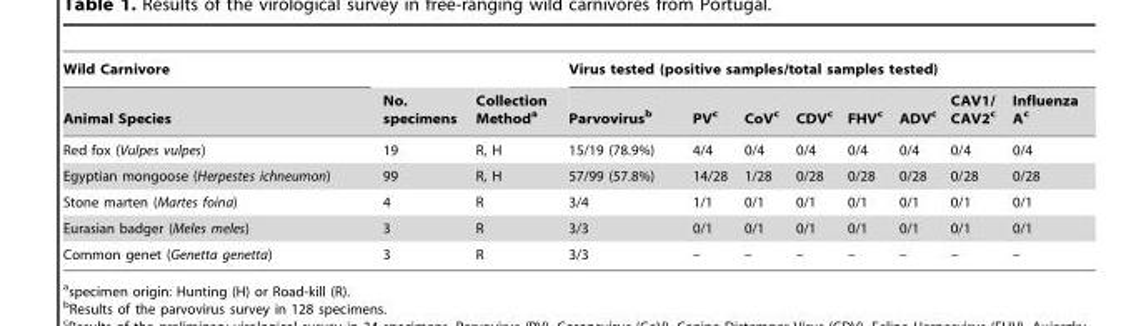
<table><thead><tr><td rowspan="2">Wild Carnivore Animal Species</td><td rowspan="2">No. specimens</td><td rowspan="2">Collection Method<sup>a</sup></td><td colspan="8">Virus tested (positive samples/total samples tested)</td></tr><tr><td>Parvovirus<sup>b</sup></td><td>PV<sup>c</sup></td><td>CoV<sup>c</sup></td><td>CDV<sup>c</sup></td><td>FHV<sup>c</sup></td><td>ADV<sup>c</sup></td><td>CAV1/ CAV2<sup>c</sup></td><td>Influenza A<sup>c</sup></td></tr></thead><tbody><tr><td>Red fox (Vulpes vulpes)</td><td>19</td><td>R, H</td><td>15/19 (78.9%)</td><td>4/4</td><td>0/4</td><td>0/4</td><td>0/4</td><td>0/4</td><td>0/4</td><td>0/4</td></tr><tr><td>Egyptian mongoose (Herpestes ichneumon)</td><td>99</td><td>R, H</td><td>57/99 (57.8%)</td><td>14/28</td><td>1/28</td><td>0/28</td><td>0/28</td><td>0/28</td><td>0/28</td><td>0/28</td></tr><tr><td>Stone marten (Martes foina)</td><td>4</td><td>R</td><td>3/4</td><td>1/1</td><td>0/1</td><td>0/1</td><td>0/1</td><td>0/1</td><td>0/1</td><td>0/1</td></tr><tr><td>Eurasian badger (Meles meles)</td><td>3</td><td>R</td><td>3/3</td><td>0/1</td><td>0/1</td><td>0/1</td><td>0/1</td><td>0/1</td><td>0/1</td><td>0/1</td></tr><tr><td>Common genet (Genetta genetta)</td><td>3</td><td>R</td><td>3/3</td><td>–</td><td>–</td><td>–</td><td>–</td><td>–</td><td>–</td><td>–</td></tr></tbody></table>